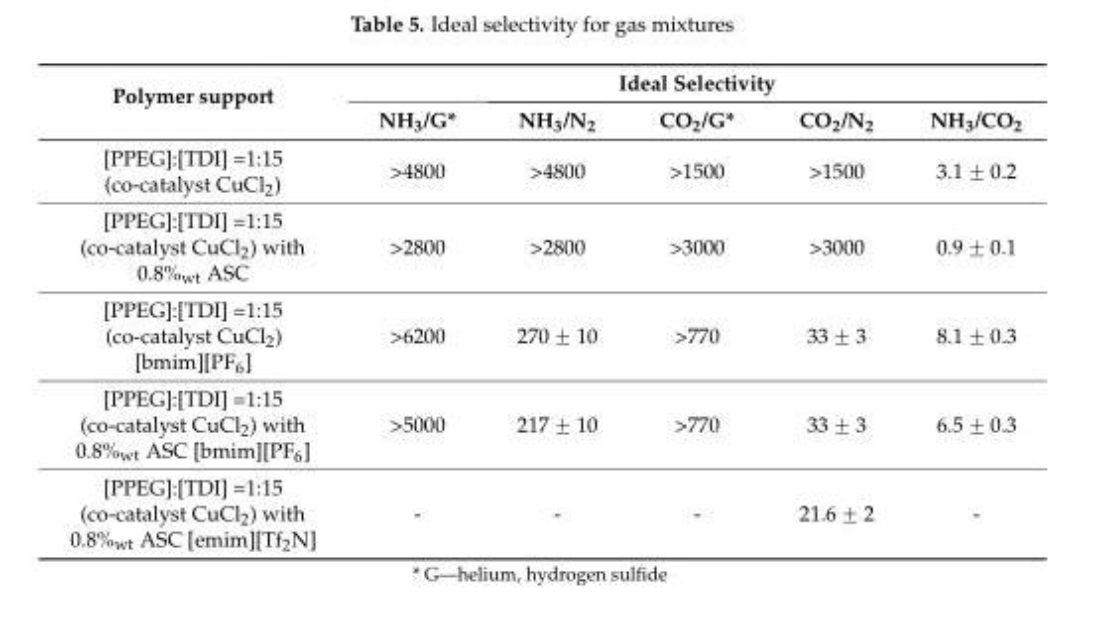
<table><thead><tr><td rowspan="2">Polymer support</td><td colspan="5">Ideal Selectivity</td></tr><tr><td>NH<sub>3</sub>/G*</td><td>NH<sub>3</sub>/N<sub>2</sub></td><td>CO<sub>2</sub>/G*</td><td>CO<sub>2</sub>/N<sub>2</sub></td><td>NH<sub>3</sub>/CO<sub>2</sub></td></tr></thead><tbody><tr><td>[PPEG]:[TDI] =1:15 (co-catalyst CuCl<sub>2</sub>)</td><td>&gt;4800</td><td>&gt;4800</td><td>&gt;1500</td><td>&gt;1500</td><td>3.1 ˘ 0.2</td></tr><tr><td>[PPEG]:[TDI] =1:15 (co-catalyst CuCl<sub>2</sub>) with 0.8%<sub>wt</sub> ASC</td><td>&gt;2800</td><td>&gt;2800</td><td>&gt;3000</td><td>&gt;3000</td><td>0.9 ˘ 0.1</td></tr><tr><td>[PPEG]:[TDI] =1:15 (co-catalyst CuCl<sub>2</sub>) [bmim][PF<sub>6</sub>]</td><td>&gt;6200</td><td>270 ˘ 10</td><td>&gt;770</td><td>33 ˘ 3</td><td>8.1 ˘ 0.3</td></tr><tr><td>[PPEG]:[TDI] =1:15 (co-catalyst CuCl<sub>2</sub>) with 0.8%<sub>wt</sub> ASC [bmim][PF<sub>6</sub>]</td><td>&gt;5000</td><td>217 ˘ 10</td><td>&gt;770</td><td>33 ˘ 3</td><td>6.5 ˘ 0.3</td></tr><tr><td>[PPEG]:[TDI] =1:15 (co-catalyst CuCl<sub>2</sub>) with 0.8%<sub>wt</sub> ASC [emim][Tf<sub>2</sub>N]</td><td>-</td><td>-</td><td>-</td><td>21.6 ˘ 2</td><td>-</td></tr></tbody></table>